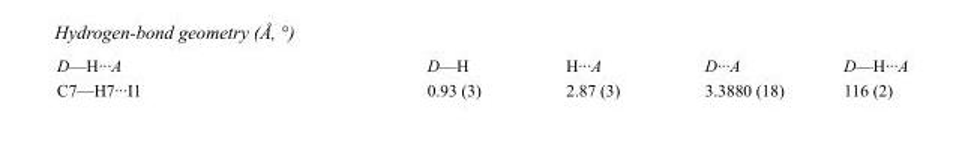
<table><tbody><tr><td>D—H···A</td><td>D—H</td><td>H···A</td><td>D···A</td><td>D—H···A</td></tr><tr><td>C7—H7···I1</td><td>0.93 (3)</td><td>2.87 (3)</td><td>3.3880 (18)</td><td>116 (2)</td></tr></tbody></table>